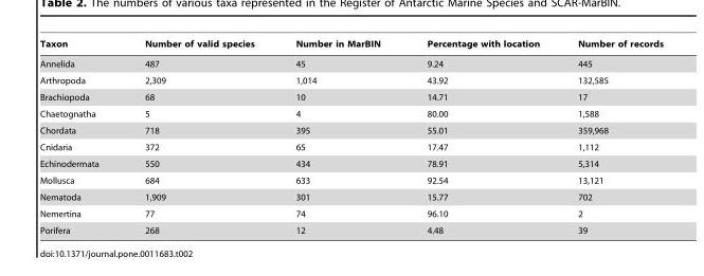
<table><thead><tr><td>Taxon</td><td>Number of valid species</td><td>Number in MarBIN</td><td>Percentage with location</td><td>Number of records</td></tr></thead><tbody><tr><td>Annelida</td><td>487</td><td>45</td><td>9.24</td><td>445</td></tr><tr><td>Arthropoda</td><td>2,309</td><td>1,014</td><td>43.92</td><td>132,585</td></tr><tr><td>Brachiopoda</td><td>68</td><td>10</td><td>14.71</td><td>17</td></tr><tr><td>Chaetognatha</td><td>5</td><td>4</td><td>80.00</td><td>1,588</td></tr><tr><td>Chordata</td><td>718</td><td>395</td><td>55.01</td><td>359,968</td></tr><tr><td>Cnidaria</td><td>372</td><td>65</td><td>17.47</td><td>1,112</td></tr><tr><td>Echinodermata</td><td>550</td><td>434</td><td>78.91</td><td>5,314</td></tr><tr><td>Mollusca</td><td>684</td><td>633</td><td>92.54</td><td>13,121</td></tr><tr><td>Nematoda</td><td>1,909</td><td>301</td><td>15.77</td><td>702</td></tr><tr><td>Nemertina</td><td>77</td><td>74</td><td>96.10</td><td>2</td></tr><tr><td>Porifera</td><td>268</td><td>12</td><td>4.48</td><td>39</td></tr></tbody></table>